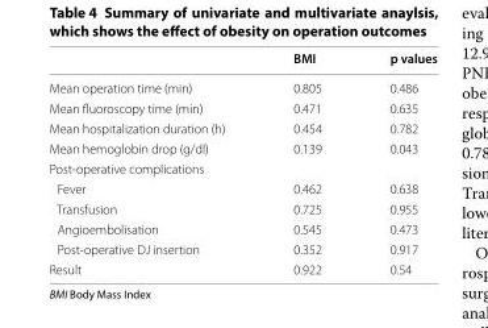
<table><thead><tr><td></td><td>BMI</td><td>p values</td></tr></thead><tbody><tr><td>Mean operation time (min)</td><td>0.805</td><td>0.486</td></tr><tr><td>Mean fluoroscopy time (min)</td><td>0.471</td><td>0.635</td></tr><tr><td>Mean hospitalization duration (h)</td><td>0.454</td><td>0.782</td></tr><tr><td>Mean hemoglobin drop (g/dl)</td><td>0.139</td><td>0.043</td></tr><tr><td colspan="3">Post-operative complications</td></tr><tr><td>Fever</td><td>0.462</td><td>0.638</td></tr><tr><td>Transfusion</td><td>0.725</td><td>0.955</td></tr><tr><td>Angioembolisation</td><td>0.545</td><td>0.473</td></tr><tr><td>Post-operative DJ insertion</td><td>0.352</td><td>0.917</td></tr><tr><td>Result</td><td>0.922</td><td>0.54</td></tr></tbody></table>